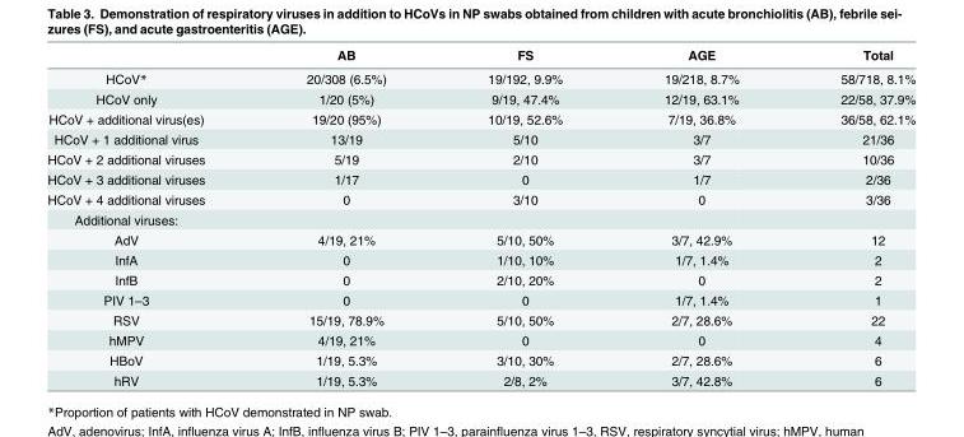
<table><thead><tr><td></td><td>AB</td><td>FS</td><td>AGE</td><td>Total</td></tr></thead><tbody><tr><td>HCoV*</td><td>20/308 (6.5%)</td><td>19/192, 9.9%</td><td>19/218, 8.7%</td><td>58/718, 8.1%</td></tr><tr><td>HCoV only</td><td>1/20 (5%)</td><td>9/19, 47.4%</td><td>12/19, 63.1%</td><td>22/58, 37.9%</td></tr><tr><td>HCoV + additional virus(es)</td><td>19/20 (95%)</td><td>10/19, 52.6%</td><td>7/19, 36.8%</td><td>36/58, 62.1%</td></tr><tr><td>HCoV + 1 additional virus</td><td>13/19</td><td>5/10</td><td>3/7</td><td>21/36</td></tr><tr><td>HCoV + 2 additional viruses</td><td>5/19</td><td>2/10</td><td>3/7</td><td>10/36</td></tr><tr><td>HCoV + 3 additional viruses</td><td>1/17</td><td>0</td><td>1/7</td><td>2/36</td></tr><tr><td>HCoV + 4 additional viruses</td><td>0</td><td>3/10</td><td>0</td><td>3/36</td></tr><tr><td colspan="5">Additional viruses:</td></tr><tr><td>AdV</td><td>4/19, 21%</td><td>5/10, 50%</td><td>3/7, 42.9%</td><td>12</td></tr><tr><td>InfA</td><td>0</td><td>1/10, 10%</td><td>1/7, 1.4%</td><td>2</td></tr><tr><td>InfB</td><td>0</td><td>2/10, 20%</td><td>0</td><td>2</td></tr><tr><td>PIV 1–3</td><td>0</td><td>0</td><td>1/7, 1.4%</td><td>1</td></tr><tr><td>RSV</td><td>15/19, 78.9%</td><td>5/10, 50%</td><td>2/7, 28.6%</td><td>22</td></tr><tr><td>hMPV</td><td>4/19, 21%</td><td>0</td><td>0</td><td>4</td></tr><tr><td>HBoV</td><td>1/19, 5.3%</td><td>3/10, 30%</td><td>2/7, 28.6%</td><td>6</td></tr><tr><td>hRV</td><td>1/19, 5.3%</td><td>2/8, 2%</td><td>3/7, 42.8%</td><td>6</td></tr></tbody></table>